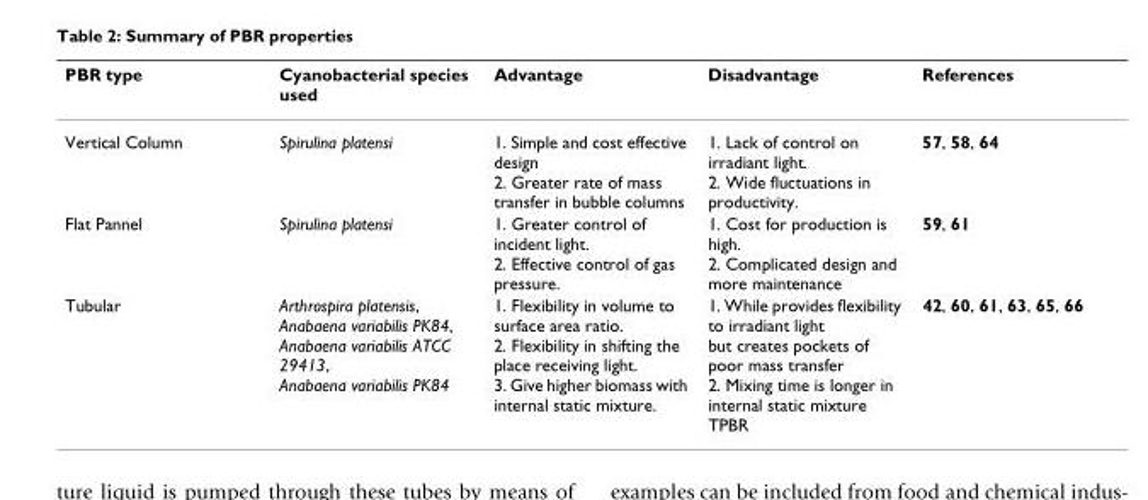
<table><thead><tr><td>PBR type</td><td>Cyanobacterial species used</td><td>Advantage</td><td>Disadvantage</td><td>References</td></tr></thead><tbody><tr><td>Vertical Column</td><td>Spirulina platensi</td><td>1. Simple and cost effective design 2. Greater rate of mass transfer in bubble columns</td><td>1. Lack of control on irradiant light. 2. Wide fluctuations in productivity.</td><td>57, 58, 64</td></tr><tr><td>Flat Pannel</td><td>Spirulina platensi</td><td>1. Greater control of incident light. 2. Effective control of gas pressure.</td><td>1. Cost for production is high. 2. Complicated design and more maintenance</td><td>59, 61</td></tr><tr><td>Tubular</td><td>Arthrospira platensis, Anabaena variabilis PK84, Anabaena variabilis ATCC 29413, Anabaena variabilis PK84</td><td>1. Flexibility in volume to surface area ratio. 2. Flexibility in shifting the place receiving light. 3. Give higher biomass with internal static mixture.</td><td>1. While provides flexibility to irradiant light but creates pockets of poor mass transfer 2. Mixing time is longer in internal static mixture TPBR</td><td>42, 60, 61, 63, 65, 66</td></tr></tbody></table>